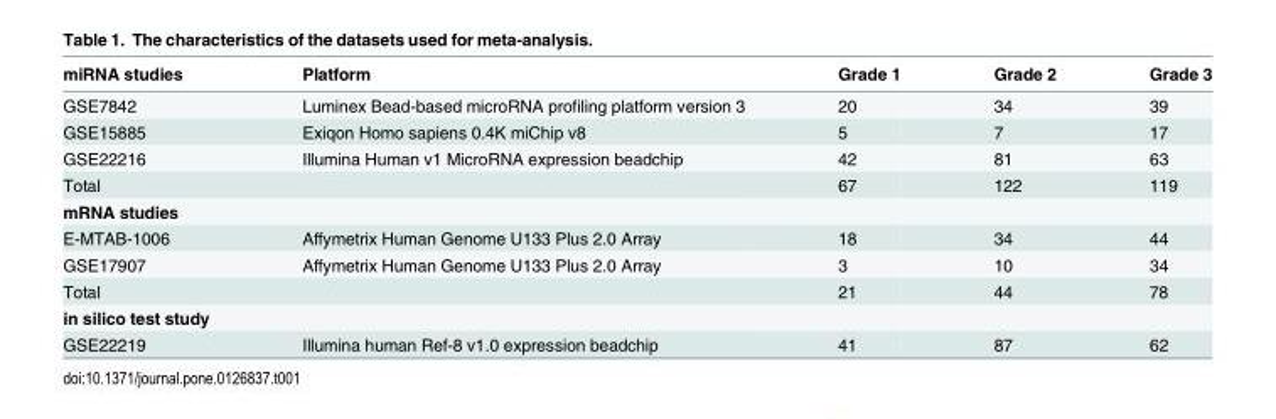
<table><thead><tr><td>miRNA studies</td><td>Platform</td><td>Grade 1</td><td>Grade 2</td><td>Grade 3</td></tr></thead><tbody><tr><td>GSE7842</td><td>Luminex Bead-based microRNA profiling platform version 3</td><td>20</td><td>34</td><td>39</td></tr><tr><td>GSE15885</td><td>Exiqon Homo sapiens 0.4K miChip v8</td><td>5</td><td>7</td><td>17</td></tr><tr><td>GSE22216</td><td>Illumina Human v1 MicroRNA expression beadchip</td><td>42</td><td>81</td><td>63</td></tr><tr><td>Total</td><td></td><td>67</td><td>122</td><td>119</td></tr><tr><td colspan="5">mRNA studies</td></tr><tr><td>E-MTAB-1006</td><td>Affymetrix Human Genome U133 Plus 2.0 Array</td><td>18</td><td>34</td><td>44</td></tr><tr><td>GSE17907</td><td>Affymetrix Human Genome U133 Plus 2.0 Array</td><td>3</td><td>10</td><td>34</td></tr><tr><td>Total</td><td></td><td>21</td><td>44</td><td>78</td></tr><tr><td colspan="5">in silico test study</td></tr><tr><td>GSE22219</td><td>Illumina human Ref-8 v1.0 expression beadchip</td><td>41</td><td>87</td><td>62</td></tr></tbody></table>